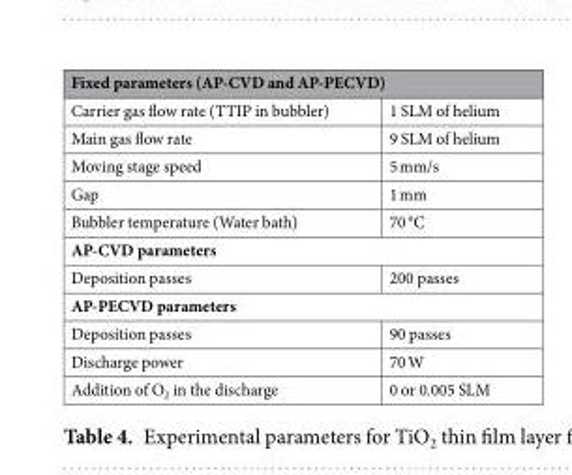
<table><thead><tr><td colspan="2">Fixed parameters (AP-CVD and AP-PECVD)</td></tr><tr><td>Carrier gas flow rate (TTIP in bubbler)</td><td>1 SLM of helium</td></tr></thead><tbody><tr><td>Main gas flow rate</td><td>9 SLM of helium</td></tr><tr><td>Moving stage speed</td><td>5 mm/s</td></tr><tr><td>Gap</td><td>1 mm</td></tr><tr><td>Bubbler temperature (Water bath)</td><td>70 °C</td></tr><tr><td colspan="2">AP-CVD parameters</td></tr><tr><td>Deposition passes</td><td>200 passes</td></tr><tr><td colspan="2">AP-PECVD parameters</td></tr><tr><td>Deposition passes</td><td>90 passes</td></tr><tr><td>Discharge power</td><td>70 W</td></tr><tr><td>Addition of O<sub>2</sub> in the discharge</td><td>0 or 0.005 SLM</td></tr></tbody></table>